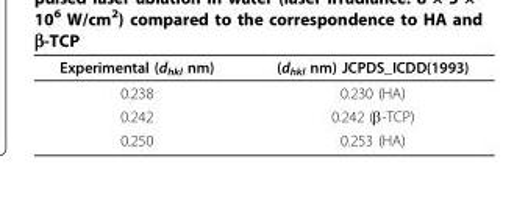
<table><thead><tr><td>Experimental (d<sub>hkl</sub> nm)</td><td>(d<sub>hkl</sub> nm) JCPDS_ICDD(1993)</td></tr></thead><tbody><tr><td>0.238</td><td>0.230 (HA)</td></tr><tr><td>0.242</td><td>0.242 (β-TCP)</td></tr><tr><td>0.250</td><td>0.253 (HA)</td></tr></tbody></table>